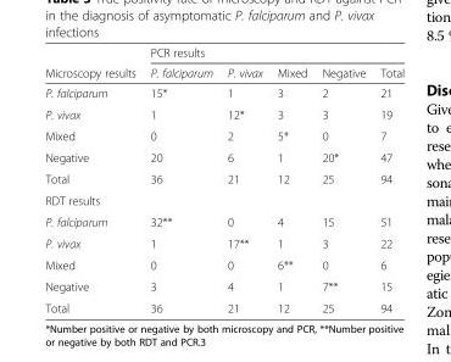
<table><thead><tr><td rowspan="2">Microscopy results</td><td colspan="5">PCR results</td></tr><tr><td>P. falciparum</td><td>P. vivax</td><td>Mixed</td><td>Negative</td><td>Total</td></tr></thead><tbody><tr><td>P. falciparum</td><td>15*</td><td>1</td><td>3</td><td>2</td><td>21</td></tr><tr><td>P. vivax</td><td>1</td><td>12*</td><td>3</td><td>3</td><td>19</td></tr><tr><td>Mixed</td><td>0</td><td>2</td><td>5*</td><td>0</td><td>7</td></tr><tr><td>Negative</td><td>20</td><td>6</td><td>1</td><td>20*</td><td>47</td></tr><tr><td>Total</td><td>36</td><td>21</td><td>12</td><td>25</td><td>94</td></tr><tr><td colspan="6">RDT results</td></tr><tr><td>P. falciparum</td><td>32**</td><td>0</td><td>4</td><td>15</td><td>51</td></tr><tr><td>P. vivax</td><td>1</td><td>17**</td><td>1</td><td>3</td><td>22</td></tr><tr><td>Mixed</td><td>0</td><td>0</td><td>6**</td><td>0</td><td>6</td></tr><tr><td>Negative</td><td>3</td><td>4</td><td>1</td><td>7**</td><td>15</td></tr><tr><td>Total</td><td>36</td><td>21</td><td>12</td><td>25</td><td>94</td></tr></tbody></table>